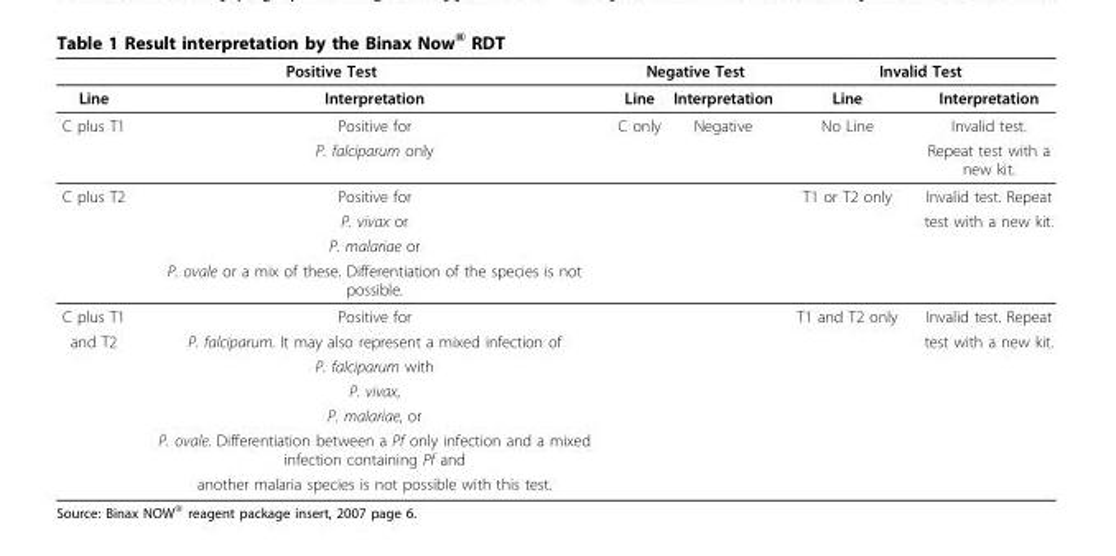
<table><thead><tr><td colspan="2">Positive Test</td><td colspan="2">Negative Test</td><td colspan="2">Invalid Test</td></tr><tr><td>Line</td><td>Interpretation</td><td>Line</td><td>Interpretation</td><td>Line</td><td>Interpretation</td></tr></thead><tbody><tr><td rowspan="2">C plus T1</td><td>Positive for</td><td>C only</td><td>Negative</td><td>No Line</td><td>Invalid test.</td></tr><tr><td>P. falciparum only</td><td></td><td></td><td></td><td>Repeat test with a new kit.</td></tr><tr><td rowspan="4">C plus T2</td><td>Positive for</td><td></td><td></td><td>T1 or T2 only</td><td>Invalid test. Repeat</td></tr><tr><td>P. vivax or</td><td></td><td></td><td></td><td>test with a new kit.</td></tr><tr><td>P. malariae or</td><td></td><td></td><td></td><td></td></tr><tr><td>P. ovale or a mix of these. Differentiation of the species is not possible.</td><td></td><td></td><td></td><td></td></tr><tr><td>C plus T1</td><td>Positive for</td><td></td><td></td><td>T1 and T2 only</td><td>Invalid test. Repeat</td></tr><tr><td rowspan="6">and T2</td><td>P. falciparum. It may also represent a mixed infection of</td><td></td><td></td><td></td><td>test with a new kit.</td></tr><tr><td>P. falciparum with</td><td></td><td></td><td></td><td></td></tr><tr><td>P. vivax,</td><td></td><td></td><td></td><td></td></tr><tr><td>P. malariae, or</td><td></td><td></td><td></td><td></td></tr><tr><td>P. ovale. Differentiation between a Pf only infection and a mixed infection containing Pf and</td><td></td><td></td><td></td><td></td></tr><tr><td>another malaria species is not possible with this test.</td><td></td><td></td><td></td><td></td></tr></tbody></table>